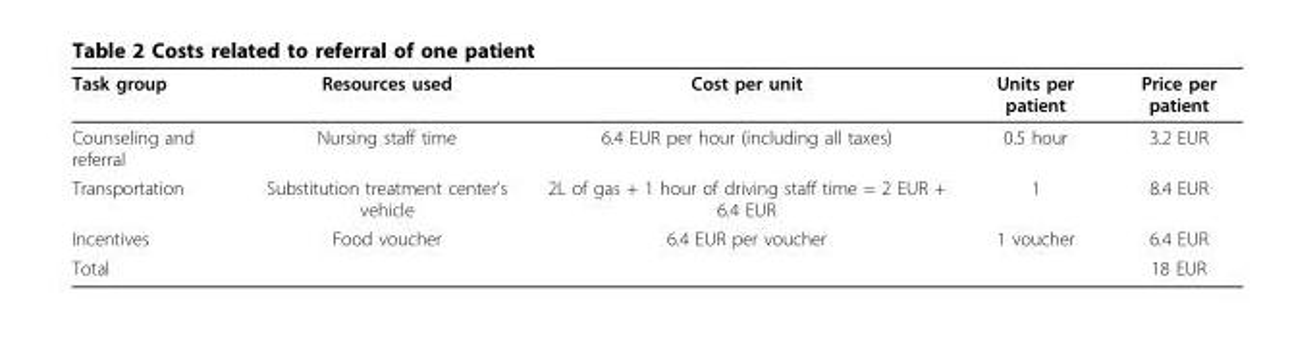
<table><thead><tr><td>Task group</td><td>Resources used</td><td>Cost per unit</td><td>Units per patient</td><td>Price per patient</td></tr></thead><tbody><tr><td>Counseling and referral</td><td>Nursing staff time</td><td>6.4 EUR per hour (including all taxes)</td><td>0.5 hour</td><td>3.2 EUR</td></tr><tr><td>Transportation</td><td>Substitution treatment center’s vehicle</td><td>2L of gas + 1 hour of driving staff time = 2 EUR + 6.4 EUR</td><td>1</td><td>8.4 EUR</td></tr><tr><td>Incentives</td><td>Food voucher</td><td>6.4 EUR per voucher</td><td>1 voucher</td><td>6.4 EUR</td></tr><tr><td>Total</td><td></td><td></td><td></td><td>18 EUR</td></tr></tbody></table>